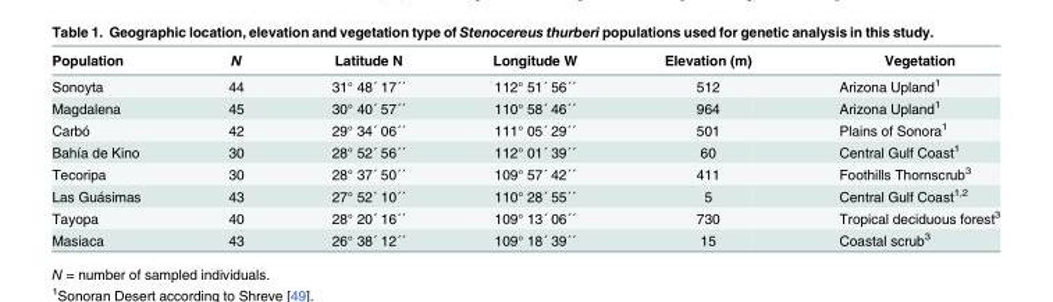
<table><thead><tr><td>Population</td><td>N</td><td>Latitude N</td><td>Longitude W</td><td>Elevation (m)</td><td>Vegetation</td></tr></thead><tbody><tr><td>Sonoyta</td><td>44</td><td>31° 48´ 17´´</td><td>112° 51´ 56´´</td><td>512</td><td>Arizona Upland<sup>1</sup></td></tr><tr><td>Magdalena</td><td>45</td><td>30° 40´ 57´´</td><td>110° 58´ 46´´</td><td>964</td><td>Arizona Upland<sup>1</sup></td></tr><tr><td>Carbó</td><td>42</td><td>29° 34´ 06´´</td><td>111° 05´ 29´´</td><td>501</td><td>Plains of Sonora<sup>1</sup></td></tr><tr><td>Bahía de Kino</td><td>30</td><td>28° 52´ 56´´</td><td>112° 01´ 39´´</td><td>60</td><td>Central Gulf Coast<sup>1</sup></td></tr><tr><td>Tecoripa</td><td>30</td><td>28° 37´ 50´´</td><td>109° 57´ 42´´</td><td>411</td><td>Foothills Thornscrub<sup>3</sup></td></tr><tr><td>Las Guásimas</td><td>43</td><td>27° 52´ 10´´</td><td>110° 28´ 55´´</td><td>5</td><td>Central Gulf Coast<sup>1,2</sup></td></tr><tr><td>Tayopa</td><td>40</td><td>28° 20´ 16´´</td><td>109° 13´ 06´´</td><td>730</td><td>Tropical deciduous forest<sup>3</sup></td></tr><tr><td>Masiaca</td><td>43</td><td>26° 38´ 12´´</td><td>109° 18´ 39´´</td><td>15</td><td>Coastal scrub<sup>3</sup></td></tr></tbody></table>